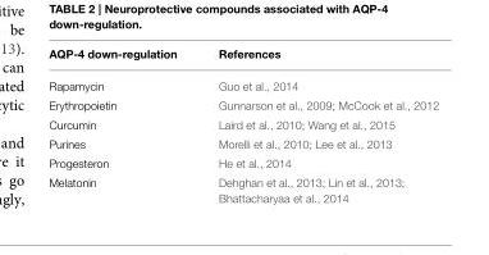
<table><thead><tr><td>AQP-4 down-regulation</td><td>References</td></tr></thead><tbody><tr><td>Rapamycin</td><td>Guo et al., 2014</td></tr><tr><td>Erythropoietin</td><td>Gunnarson et al., 2009; McCook et al., 2012</td></tr><tr><td>Curcumin</td><td>Laird et al., 2010; Wang et al., 2015</td></tr><tr><td>Purines</td><td>Morelli et al., 2010; Lee et al., 2013</td></tr><tr><td>Progesteron</td><td>He et al., 2014</td></tr><tr><td>Melatonin</td><td>Dehghan et al., 2013; Lin et al., 2013; Bhattacharyaa et al., 2014</td></tr></tbody></table>